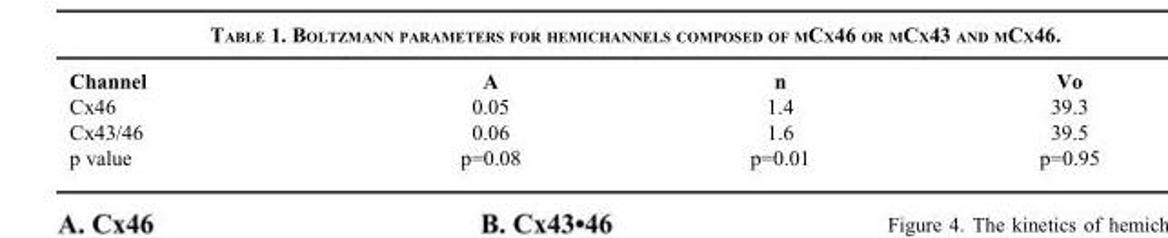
<table><thead><tr><td>Channel</td><td>A</td><td>n</td><td>Vo</td></tr></thead><tbody><tr><td>Cx46</td><td>0.05</td><td>1.4</td><td>39.3</td></tr><tr><td>Cx43/46</td><td>0.06</td><td>1.6</td><td>39.5</td></tr><tr><td>p value</td><td>p=0.08</td><td>p=0.01</td><td>p=0.95</td></tr></tbody></table>